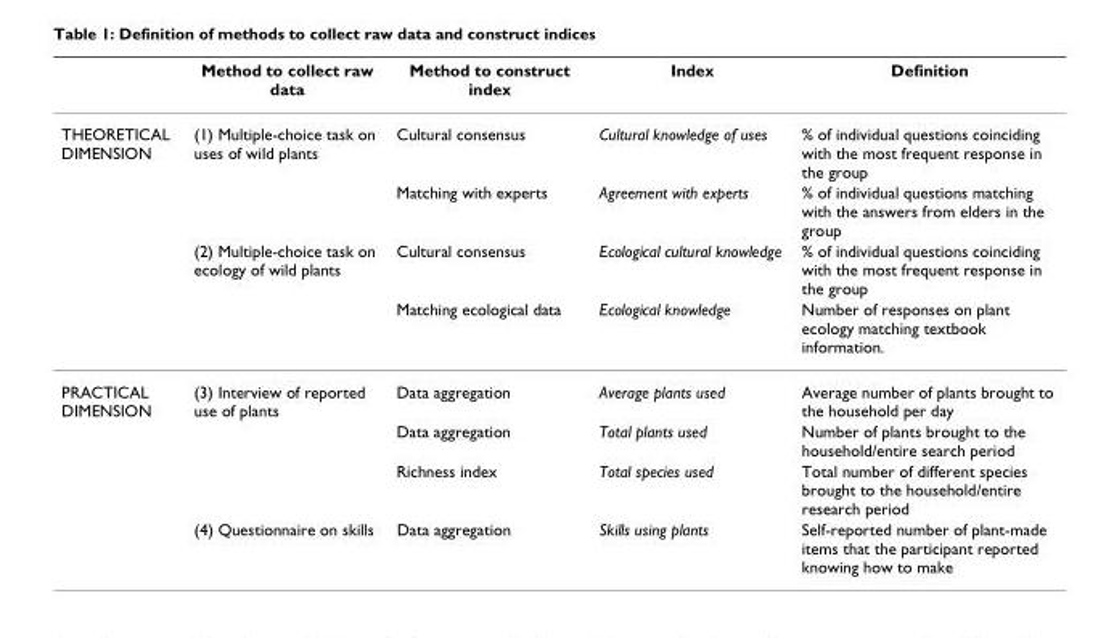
<table><thead><tr><td></td><td>Method to collect raw data</td><td>Method to construct index</td><td>Index</td><td>Definition</td></tr></thead><tbody><tr><td rowspan="4">THEORETICAL DIMENSION</td><td>(1) Multiple-choice task on uses of wild plants</td><td>Cultural consensus</td><td>Cultural knowledge of uses</td><td>% of individual questions coinciding with the most frequent response in the group</td></tr><tr><td></td><td>Matching with experts</td><td>Agreement with experts</td><td>% of individual questions matching with the answers from elders in the group</td></tr><tr><td>(2) Multiple-choice task on ecology of wild plants</td><td>Cultural consensus</td><td>Ecological cultural knowledge</td><td>% of individual questions coinciding with the most frequent response in the group</td></tr><tr><td></td><td>Matching ecological data</td><td>Ecological knowledge</td><td>Number of responses on plant ecology matching textbook information.</td></tr><tr><td rowspan="4">PRACTICAL DIMENSION</td><td>(3) Interview of reported use of plants</td><td>Data aggregation</td><td>Average plants used</td><td>Average number of plants brought to the household per day</td></tr><tr><td></td><td>Data aggregation</td><td>Total plants used</td><td>Number of plants brought to the household/entire search period</td></tr><tr><td></td><td>Richness index</td><td>Total species used</td><td>Total number of different species brought to the household/entire research period</td></tr><tr><td>(4) Questionnaire on skills</td><td>Data aggregation</td><td>Skills using plants</td><td>Self-reported number of plant-made items that the participant reported knowing how to make</td></tr></tbody></table>